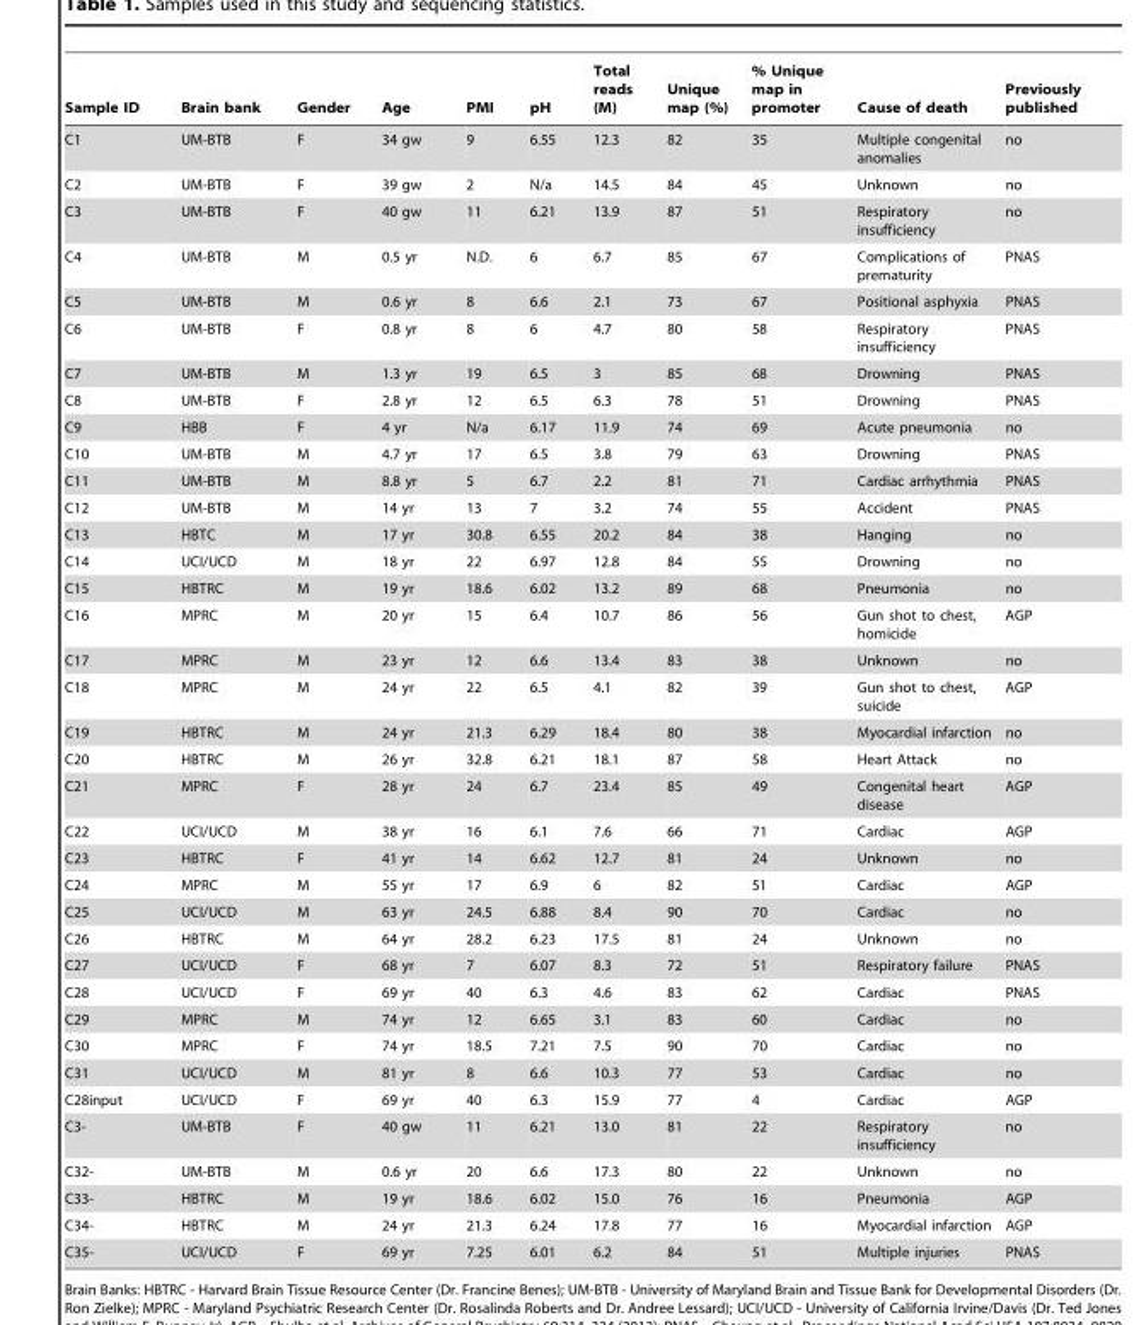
<table><thead><tr><td>Sample ID</td><td>Brain bank</td><td>Gender</td><td>Age</td><td>PMI</td><td>pH</td><td>Total reads (M)</td><td>Unique map (%)</td><td>% Unique map in promoter</td><td>Cause of death</td><td>Previously published</td></tr></thead><tbody><tr><td>C1</td><td>UM-BTB</td><td>F</td><td>34 gw</td><td>9</td><td>6.55</td><td>12.3</td><td>82</td><td>35</td><td>Multiple congenital anomalies</td><td>no</td></tr><tr><td>C2</td><td>UM-BTB</td><td>F</td><td>39 gw</td><td>2</td><td>N/a</td><td>14.5</td><td>84</td><td>45</td><td>Unknown</td><td>no</td></tr><tr><td>C3</td><td>UM-BTB</td><td>F</td><td>40 gw</td><td>11</td><td>6.21</td><td>13.9</td><td>87</td><td>51</td><td>Respiratory insufficiency</td><td>no</td></tr><tr><td>C4</td><td>UM-BTB</td><td>M</td><td>0.5 yr</td><td>N.D.</td><td>6</td><td>6.7</td><td>85</td><td>67</td><td>Complications of prematurity</td><td>PNAS</td></tr><tr><td>C5</td><td>UM-BTB</td><td>M</td><td>0.6 yr</td><td>8</td><td>6.6</td><td>2.1</td><td>73</td><td>67</td><td>Positional asphyxia</td><td>PNAS</td></tr><tr><td>C6</td><td>UM-BTB</td><td>F</td><td>0.8 yr</td><td>8</td><td>6</td><td>4.7</td><td>80</td><td>58</td><td>Respiratory insufficiency</td><td>PNAS</td></tr><tr><td>C7</td><td>UM-BTB</td><td>M</td><td>1.3 yr</td><td>19</td><td>6.5</td><td>3</td><td>85</td><td>68</td><td>Drowning</td><td>PNAS</td></tr><tr><td>C8</td><td>UM-BTB</td><td>F</td><td>2.8 yr</td><td>12</td><td>6.5</td><td>6.3</td><td>78</td><td>51</td><td>Drowning</td><td>PNAS</td></tr><tr><td>C9</td><td>HBB</td><td>F</td><td>4 yr</td><td>N/a</td><td>6.17</td><td>11.9</td><td>74</td><td>69</td><td>Acute pneumonia</td><td>no</td></tr><tr><td>C10</td><td>UM-BTB</td><td>M</td><td>4.7 yr</td><td>17</td><td>6.5</td><td>3.8</td><td>79</td><td>63</td><td>Drowning</td><td>PNAS</td></tr><tr><td>C11</td><td>UM-BTB</td><td>M</td><td>8.8 yr</td><td>5</td><td>6.7</td><td>2.2</td><td>81</td><td>71</td><td>Cardiac arrhythmia</td><td>PNAS</td></tr><tr><td>C12</td><td>UM-BTB</td><td>M</td><td>14 yr</td><td>13</td><td>7</td><td>3.2</td><td>74</td><td>55</td><td>Accident</td><td>PNAS</td></tr><tr><td>C13</td><td>HBTC</td><td>M</td><td>17 yr</td><td>30.8</td><td>6.55</td><td>20.2</td><td>84</td><td>38</td><td>Hanging</td><td>no</td></tr><tr><td>C14</td><td>UCI/UCD</td><td>M</td><td>18 yr</td><td>22</td><td>6.97</td><td>12.8</td><td>84</td><td>55</td><td>Drowning</td><td>no</td></tr><tr><td>C15</td><td>HBTRC</td><td>M</td><td>19 yr</td><td>18.6</td><td>6.02</td><td>13.2</td><td>89</td><td>68</td><td>Pneumonia</td><td>no</td></tr><tr><td>C16</td><td>MPRC</td><td>M</td><td>20 yr</td><td>15</td><td>6.4</td><td>10.7</td><td>86</td><td>56</td><td>Gun shot to chest, homicide</td><td>AGP</td></tr><tr><td>C17</td><td>MPRC</td><td>M</td><td>23 yr</td><td>12</td><td>6.6</td><td>13.4</td><td>83</td><td>38</td><td>Unknown</td><td>no</td></tr><tr><td>C18</td><td>MPRC</td><td>M</td><td>24 yr</td><td>22</td><td>6.5</td><td>4.1</td><td>82</td><td>39</td><td>Gun shot to chest, suicide</td><td>AGP</td></tr><tr><td>C19</td><td>HBTRC</td><td>M</td><td>24 yr</td><td>21.3</td><td>6.29</td><td>18.4</td><td>80</td><td>38</td><td>Myocardial infarction</td><td>no</td></tr><tr><td>C20</td><td>HBTRC</td><td>M</td><td>26 yr</td><td>32.8</td><td>6.21</td><td>18.1</td><td>87</td><td>58</td><td>Heart Attack</td><td>no</td></tr><tr><td>C21</td><td>MPRC</td><td>F</td><td>28 yr</td><td>24</td><td>6.7</td><td>23.4</td><td>85</td><td>49</td><td>Congenital heart disease</td><td>AGP</td></tr><tr><td>C22</td><td>UCI/UCD</td><td>M</td><td>38 yr</td><td>16</td><td>6.1</td><td>7.6</td><td>66</td><td>71</td><td>Cardiac</td><td>AGP</td></tr><tr><td>C23</td><td>HBTRC</td><td>F</td><td>41 yr</td><td>14</td><td>6.62</td><td>12.7</td><td>81</td><td>24</td><td>Unknown</td><td>no</td></tr><tr><td>C24</td><td>MPRC</td><td>M</td><td>55 yr</td><td>17</td><td>6.9</td><td>6</td><td>82</td><td>51</td><td>Cardiac</td><td>AGP</td></tr><tr><td>C25</td><td>UCI/UCD</td><td>M</td><td>63 yr</td><td>24.5</td><td>6.88</td><td>8.4</td><td>90</td><td>70</td><td>Cardiac</td><td>no</td></tr><tr><td>C26</td><td>HBTRC</td><td>M</td><td>64 yr</td><td>28.2</td><td>6.23</td><td>17.5</td><td>81</td><td>24</td><td>Unknown</td><td>no</td></tr><tr><td>C27</td><td>UCI/UCD</td><td>F</td><td>68 yr</td><td>7</td><td>6.07</td><td>8.3</td><td>72</td><td>51</td><td>Respiratory failure</td><td>PNAS</td></tr><tr><td>C28</td><td>UCI/UCD</td><td>F</td><td>69 yr</td><td>40</td><td>6.3</td><td>4.6</td><td>83</td><td>62</td><td>Cardiac</td><td>PNAS</td></tr><tr><td>C29</td><td>MPRC</td><td>M</td><td>74 yr</td><td>12</td><td>6.65</td><td>3.1</td><td>83</td><td>60</td><td>Cardiac</td><td>no</td></tr><tr><td>C30</td><td>MPRC</td><td>F</td><td>74 yr</td><td>18.5</td><td>7.21</td><td>7.5</td><td>90</td><td>70</td><td>Cardiac</td><td>no</td></tr><tr><td>C31</td><td>UCI/UCD</td><td>M</td><td>81 yr</td><td>8</td><td>6.6</td><td>10.3</td><td>77</td><td>53</td><td>Cardiac</td><td>no</td></tr><tr><td>C28input</td><td>UCI/UCD</td><td>F</td><td>69 yr</td><td>40</td><td>6.3</td><td>15.9</td><td>77</td><td>4</td><td>Cardiac</td><td>AGP</td></tr><tr><td>C3-</td><td>UM-BTB</td><td>F</td><td>40 gw</td><td>11</td><td>6.21</td><td>13.0</td><td>81</td><td>22</td><td>Respiratory insufficiency</td><td>no</td></tr><tr><td>C32-</td><td>UM-BTB</td><td>M</td><td>0.6 yr</td><td>20</td><td>6.6</td><td>17.3</td><td>80</td><td>22</td><td>Unknown</td><td>no</td></tr><tr><td>C33-</td><td>HBTRC</td><td>M</td><td>19 yr</td><td>18.6</td><td>6.02</td><td>15.0</td><td>76</td><td>16</td><td>Pneumonia</td><td>AGP</td></tr><tr><td>C34-</td><td>HBTRC</td><td>M</td><td>24 yr</td><td>21.3</td><td>6.24</td><td>17.8</td><td>77</td><td>16</td><td>Myocardial infarction</td><td>AGP</td></tr><tr><td>C35-</td><td>UCI/UCD</td><td>F</td><td>69 yr</td><td>7.25</td><td>6.01</td><td>6.2</td><td>84</td><td>51</td><td>Multiple injuries</td><td>PNAS</td></tr></tbody></table>